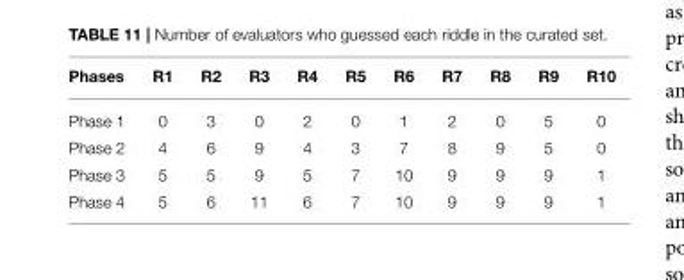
<table><thead><tr><td>Phases</td><td>R1</td><td>R2</td><td>R3</td><td>R4</td><td>R5</td><td>R6</td><td>R7</td><td>R8</td><td>R9</td><td>R10</td></tr></thead><tbody><tr><td>Phase 1</td><td>0</td><td>3</td><td>0</td><td>2</td><td>0</td><td>1</td><td>2</td><td>0</td><td>5</td><td>0</td></tr><tr><td>Phase 2</td><td>4</td><td>6</td><td>9</td><td>4</td><td>3</td><td>7</td><td>8</td><td>9</td><td>5</td><td>0</td></tr><tr><td>Phase 3</td><td>5</td><td>5</td><td>9</td><td>5</td><td>7</td><td>10</td><td>9</td><td>9</td><td>9</td><td>1</td></tr><tr><td>Phase 4</td><td>5</td><td>6</td><td>11</td><td>6</td><td>7</td><td>10</td><td>9</td><td>9</td><td>9</td><td>1</td></tr></tbody></table>